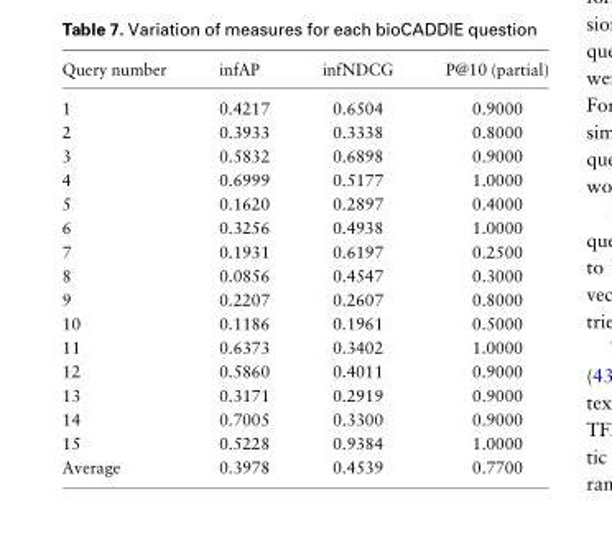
<table><thead><tr><td>Query number</td><td>infAP</td><td>infNDCG</td><td>P@10 (partial)</td></tr></thead><tbody><tr><td>1</td><td>0.4217</td><td>0.6504</td><td>0.9000</td></tr><tr><td>2</td><td>0.3933</td><td>0.3338</td><td>0.8000</td></tr><tr><td>3</td><td>0.5832</td><td>0.6898</td><td>0.9000</td></tr><tr><td>4</td><td>0.6999</td><td>0.5177</td><td>1.0000</td></tr><tr><td>5</td><td>0.1620</td><td>0.2897</td><td>0.4000</td></tr><tr><td>6</td><td>0.3256</td><td>0.4938</td><td>1.0000</td></tr><tr><td>7</td><td>0.1931</td><td>0.6197</td><td>0.2500</td></tr><tr><td>8</td><td>0.0856</td><td>0.4547</td><td>0.3000</td></tr><tr><td>9</td><td>0.2207</td><td>0.2607</td><td>0.8000</td></tr><tr><td>10</td><td>0.1186</td><td>0.1961</td><td>0.5000</td></tr><tr><td>11</td><td>0.6373</td><td>0.3402</td><td>1.0000</td></tr><tr><td>12</td><td>0.5860</td><td>0.4011</td><td>0.9000</td></tr><tr><td>13</td><td>0.3171</td><td>0.2919</td><td>0.9000</td></tr><tr><td>14</td><td>0.7005</td><td>0.3300</td><td>0.9000</td></tr><tr><td>15</td><td>0.5228</td><td>0.9384</td><td>1.0000</td></tr><tr><td>Average</td><td>0.3978</td><td>0.4539</td><td>0.7700</td></tr></tbody></table>